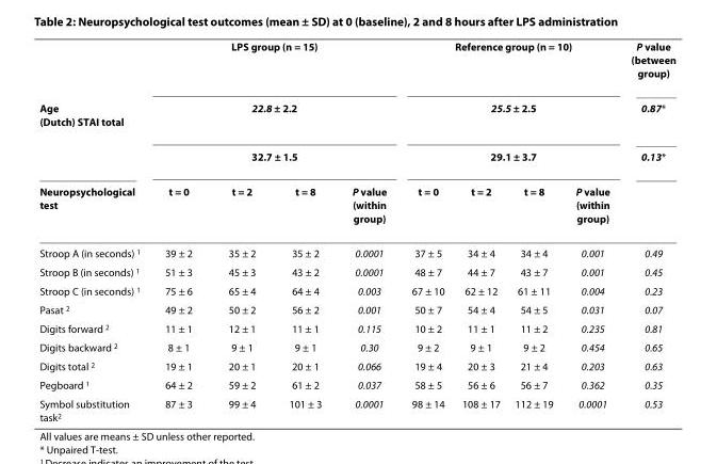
<table><thead><tr><td rowspan="4">Age (Dutch) STAI total Neuropsychological test</td><td rowspan="3" colspan="4">LPS group (n = 15) 22.8 ± 2.2 32.7 ± 1.5</td><td rowspan="3" colspan="4">Reference group (n = 10) 25.5 ± 2.5 29.1 ± 3.7</td><td rowspan="4">P value (between group) 0.87* 0.13*</td></tr><tr></tr><tr></tr><tr><td>t = 0</td><td>t = 2</td><td>t = 8</td><td>P value (within group)</td><td>t = 0</td><td>t = 2</td><td>t = 8</td><td>P value (within group)</td></tr></thead><tbody><tr><td>Stroop A (in seconds) <sup>1</sup></td><td>39 ± 2</td><td>35 ± 2</td><td>35 ± 2</td><td>0.0001</td><td>37 ± 5</td><td>34 ± 4</td><td>34 ± 4</td><td>0.001</td><td>0.49</td></tr><tr><td>Stroop B (in seconds) <sup>1</sup></td><td>51 ± 3</td><td>45 ± 3</td><td>43 ± 2</td><td>0.0001</td><td>48 ± 7</td><td>44 ± 7</td><td>43 ± 7</td><td>0.001</td><td>0.45</td></tr><tr><td>Stroop C (in seconds) <sup>1</sup></td><td>75 ± 6</td><td>65 ± 4</td><td>64 ± 4</td><td>0.003</td><td>67 ± 10</td><td>62 ± 12</td><td>61 ± 11</td><td>0.004</td><td>0.23</td></tr><tr><td>Pasat <sup>2</sup></td><td>49 ± 2</td><td>50 ± 2</td><td>56 ± 2</td><td>0.001</td><td>50 ± 7</td><td>54 ± 4</td><td>54 ± 5</td><td>0.031</td><td>0.07</td></tr><tr><td>Digits forward <sup>2</sup></td><td>11 ± 1</td><td>12 ± 1</td><td>11 ± 1</td><td>0.115</td><td>10 ± 2</td><td>11 ± 1</td><td>11 ± 2</td><td>0.235</td><td>0.81</td></tr><tr><td>Digits backward <sup>2</sup></td><td>8 ± 1</td><td>9 ± 1</td><td>9 ± 1</td><td>0.30</td><td>9 ± 2</td><td>9 ± 1</td><td>9 ± 2</td><td>0.454</td><td>0.65</td></tr><tr><td>Digits total <sup>2</sup></td><td>19 ± 1</td><td>20 ± 1</td><td>20 ± 1</td><td>0.066</td><td>19 ± 4</td><td>20 ± 3</td><td>21 ± 4</td><td>0.203</td><td>0.63</td></tr><tr><td>Pegboard <sup>1</sup></td><td>64 ± 2</td><td>59 ± 2</td><td>61 ± 2</td><td>0.037</td><td>58 ± 5</td><td>56 ± 6</td><td>56 ± 7</td><td>0.362</td><td>0.35</td></tr><tr><td>Symbol substitution task<sup>2</sup></td><td>87 ± 3</td><td>99 ± 4</td><td>101 ± 3</td><td>0.0001</td><td>98 ± 14</td><td>108 ± 17</td><td>112 ± 19</td><td>0.0001</td><td>0.53</td></tr></tbody></table>